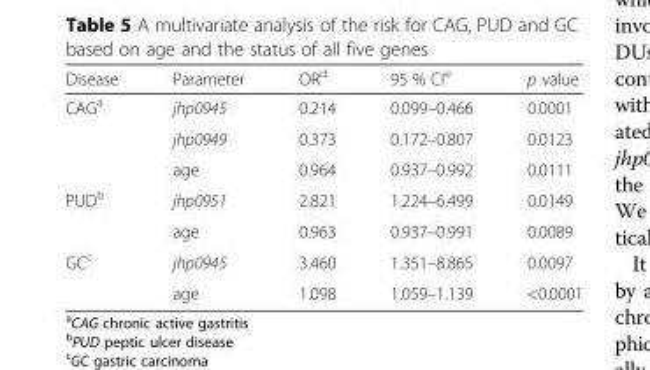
<table><thead><tr><td>Disease</td><td>Parameter</td><td>OR<sup>d</sup></td><td>95 % CI<sup>e</sup></td><td>p value</td></tr></thead><tbody><tr><td rowspan="3">CAG<sup>a</sup></td><td>jhp0945</td><td>0.214</td><td>0.099–0.466</td><td>0.0001</td></tr><tr><td>jhp0949</td><td>0.373</td><td>0.172–0.807</td><td>0.0123</td></tr><tr><td>age</td><td>0.964</td><td>0.937–0.992</td><td>0.0111</td></tr><tr><td rowspan="2">PUD<sup>b</sup></td><td>jhp0951</td><td>2.821</td><td>1.224–6.499</td><td>0.0149</td></tr><tr><td>age</td><td>0.963</td><td>0.937–0.991</td><td>0.0089</td></tr><tr><td rowspan="2">GC<sup>c</sup></td><td>jhp0945</td><td>3.460</td><td>1.351–8.865</td><td>0.0097</td></tr><tr><td>age</td><td>1.098</td><td>1.059–1.139</td><td>&lt;0.0001</td></tr></tbody></table>